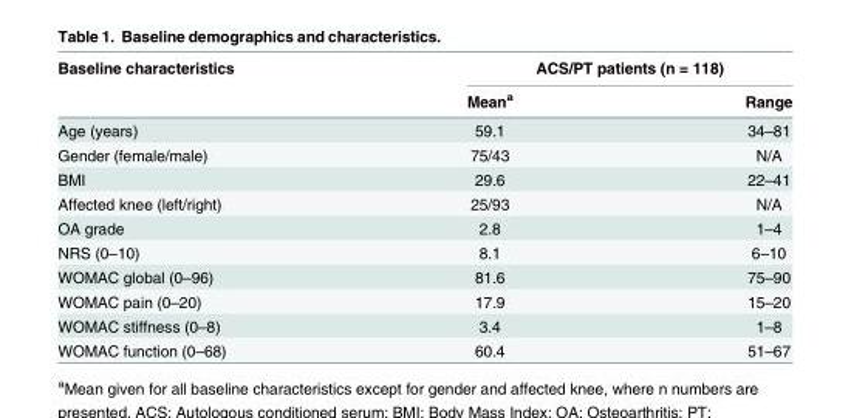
<table><thead><tr><td rowspan="2">Baseline characteristics</td><td colspan="2">ACS/PT patients (n = 118)</td></tr><tr><td>Mean<sup>a</sup></td><td>Range</td></tr></thead><tbody><tr><td>Age (years)</td><td>59.1</td><td>34–81</td></tr><tr><td>Gender (female/male)</td><td>75/43</td><td>N/A</td></tr><tr><td>BMI</td><td>29.6</td><td>22–41</td></tr><tr><td>Affected knee (left/right)</td><td>25/93</td><td>N/A</td></tr><tr><td>OA grade</td><td>2.8</td><td>1–4</td></tr><tr><td>NRS (0–10)</td><td>8.1</td><td>6–10</td></tr><tr><td>WOMAC global (0–96)</td><td>81.6</td><td>75–90</td></tr><tr><td>WOMAC pain (0–20)</td><td>17.9</td><td>15–20</td></tr><tr><td>WOMAC stiffness (0–8)</td><td>3.4</td><td>1–8</td></tr><tr><td>WOMAC function (0–68)</td><td>60.4</td><td>51–67</td></tr></tbody></table>